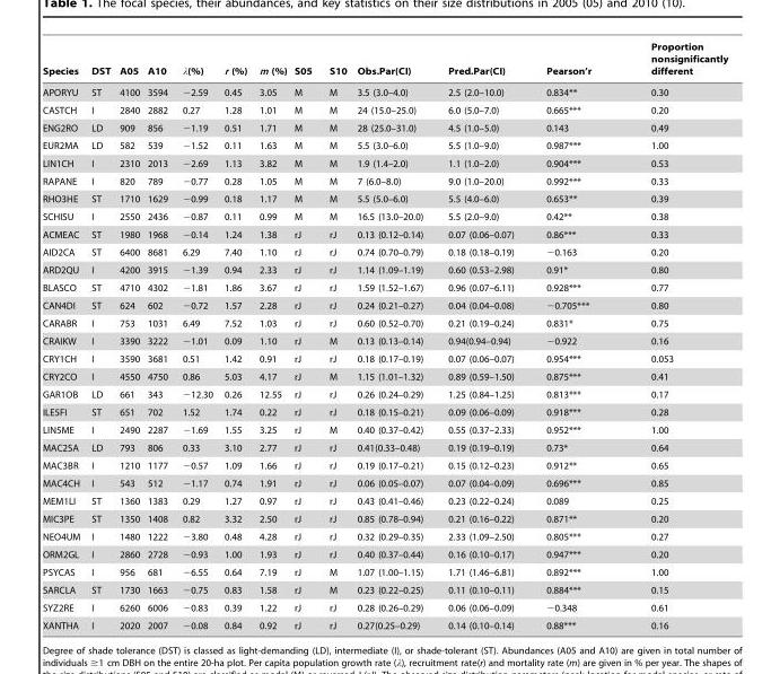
<table><thead><tr><td>Species</td><td>DST</td><td>A05</td><td>A10</td><td>l(%)</td><td>r (%)</td><td>m (%)</td><td>S05</td><td>S10</td><td>Obs.Par(CI)</td><td>Pred.Par(CI)</td><td>Pearson’r</td><td>Proportion nonsignificantly different</td></tr></thead><tbody><tr><td>APORYU</td><td>ST</td><td>4100</td><td>3594</td><td>−2.59</td><td>0.45</td><td>3.05</td><td>M</td><td>M</td><td>3.5 (3.0–4.0)</td><td>2.5 (2.0–10.0)</td><td>0.834**</td><td>0.30</td></tr><tr><td>CASTCH</td><td>I</td><td>2840</td><td>2882</td><td>0.27</td><td>1.28</td><td>1.01</td><td>M</td><td>M</td><td>24 (15.0–25.0)</td><td>6.0 (5.0–7.0)</td><td>0.665***</td><td>0.20</td></tr><tr><td>ENG2RO</td><td>LD</td><td>909</td><td>856</td><td>−1.19</td><td>0.51</td><td>1.71</td><td>M</td><td>M</td><td>28 (25.0–31.0)</td><td>4.5 (1.0–5.0)</td><td>0.143</td><td>0.49</td></tr><tr><td>EUR2MA</td><td>LD</td><td>582</td><td>539</td><td>−1.52</td><td>0.11</td><td>1.63</td><td>M</td><td>M</td><td>5.5 (3.0–6.0)</td><td>5.5 (1.0–9.0)</td><td>0.987***</td><td>1.00</td></tr><tr><td>LIN1CH</td><td>I</td><td>2310</td><td>2013</td><td>−2.69</td><td>1.13</td><td>3.82</td><td>M</td><td>M</td><td>1.9 (1.4–2.0)</td><td>1.1 (1.0–2.0)</td><td>0.904***</td><td>0.53</td></tr><tr><td>RAPANE</td><td>I</td><td>820</td><td>789</td><td>−0.77</td><td>0.28</td><td>1.05</td><td>M</td><td>M</td><td>7 (6.0–8.0)</td><td>9.0 (1.0–20.0)</td><td>0.992***</td><td>0.33</td></tr><tr><td>RHO3HE</td><td>ST</td><td>1710</td><td>1629</td><td>−0.99</td><td>0.18</td><td>1.17</td><td>M</td><td>M</td><td>5.5 (5.0–6.0)</td><td>5.5 (4.0–6.0)</td><td>0.653**</td><td>0.39</td></tr><tr><td>SCHISU</td><td>I</td><td>2550</td><td>2436</td><td>−0.87</td><td>0.11</td><td>0.99</td><td>M</td><td>M</td><td>16.5 (13.0–20.0)</td><td>5.5 (2.0–9.0)</td><td>0.42**</td><td>0.38</td></tr><tr><td>ACMEAC</td><td>ST</td><td>1980</td><td>1968</td><td>−0.14</td><td>1.24</td><td>1.38</td><td>rJ</td><td>rJ</td><td>0.13 (0.12–0.14)</td><td>0.07 (0.06–0.07)</td><td>0.86***</td><td>0.33</td></tr><tr><td>AID2CA</td><td>ST</td><td>6400</td><td>8681</td><td>6.29</td><td>7.40</td><td>1.10</td><td>rJ</td><td>rJ</td><td>0.74 (0.70–0.79)</td><td>0.18 (0.18–0.19)</td><td>−0.163</td><td>0.20</td></tr><tr><td>ARD2QU</td><td>I</td><td>4200</td><td>3915</td><td>−1.39</td><td>0.94</td><td>2.33</td><td>rJ</td><td>rJ</td><td>1.14 (1.09–1.19)</td><td>0.60 (0.53–2.98)</td><td>0.91*</td><td>0.80</td></tr><tr><td>BLASCO</td><td>ST</td><td>4710</td><td>4302</td><td>−1.81</td><td>1.86</td><td>3.67</td><td>rJ</td><td>rJ</td><td>1.59 (1.52–1.67)</td><td>0.96 (0.07–6.11)</td><td>0.928***</td><td>0.77</td></tr><tr><td>CAN4DI</td><td>ST</td><td>624</td><td>602</td><td>−0.72</td><td>1.57</td><td>2.28</td><td>rJ</td><td>rJ</td><td>0.24 (0.21–0.27)</td><td>0.04 (0.04–0.08)</td><td>−0.705***</td><td>0.80</td></tr><tr><td>CARABR</td><td>I</td><td>753</td><td>1031</td><td>6.49</td><td>7.52</td><td>1.03</td><td>rJ</td><td>rJ</td><td>0.60 (0.52–0.70)</td><td>0.21 (0.19–0.24)</td><td>0.831*</td><td>0.75</td></tr><tr><td>CRAIKW</td><td>I</td><td>3390</td><td>3222</td><td>−1.01</td><td>0.09</td><td>1.10</td><td>rJ</td><td>M</td><td>0.13 (0.13–0.14)</td><td>0.94(0.94–0.94)</td><td>−0.922</td><td>0.16</td></tr><tr><td>CRY1CH</td><td>I</td><td>3590</td><td>3681</td><td>0.51</td><td>1.42</td><td>0.91</td><td>rJ</td><td>rJ</td><td>0.18 (0.17–0.19)</td><td>0.07 (0.06–0.07)</td><td>0.954***</td><td>0.053</td></tr><tr><td>CRY2CO</td><td>I</td><td>4550</td><td>4750</td><td>0.86</td><td>5.03</td><td>4.17</td><td>rJ</td><td>M</td><td>1.15 (1.01–1.32)</td><td>0.89 (0.59–1.50)</td><td>0.875***</td><td>0.41</td></tr><tr><td>GAR1OB</td><td>LD</td><td>661</td><td>343</td><td>−12.30</td><td>0.26</td><td>12.55</td><td>rJ</td><td>rJ</td><td>0.26 (0.24–0.29)</td><td>1.25 (0.84–1.25)</td><td>0.813***</td><td>0.17</td></tr><tr><td>ILE5FI</td><td>ST</td><td>651</td><td>702</td><td>1.52</td><td>1.74</td><td>0.22</td><td>rJ</td><td>rJ</td><td>0.18 (0.15–0.21)</td><td>0.09 (0.06–0.09)</td><td>0.918***</td><td>0.28</td></tr><tr><td>LIN5ME</td><td>I</td><td>2490</td><td>2287</td><td>−1.69</td><td>1.55</td><td>3.25</td><td>rJ</td><td>M</td><td>0.40 (0.37–0.42)</td><td>0.55 (0.37–2.33)</td><td>0.952***</td><td>1.00</td></tr><tr><td>MAC2SA</td><td>LD</td><td>793</td><td>806</td><td>0.33</td><td>3.10</td><td>2.77</td><td>rJ</td><td>rJ</td><td>0.41(0.33–0.48)</td><td>0.19 (0.19–0.19)</td><td>0.73*</td><td>0.64</td></tr><tr><td>MAC3BR</td><td>I</td><td>1210</td><td>1177</td><td>−0.57</td><td>1.09</td><td>1.66</td><td>rJ</td><td>rJ</td><td>0.19 (0.17–0.21)</td><td>0.15 (0.12–0.23)</td><td>0.912**</td><td>0.65</td></tr><tr><td>MAC4CH</td><td>I</td><td>543</td><td>512</td><td>−1.17</td><td>0.74</td><td>1.91</td><td>rJ</td><td>rJ</td><td>0.06 (0.05–0.07)</td><td>0.07 (0.04–0.09)</td><td>0.696***</td><td>0.85</td></tr><tr><td>MEM1LI</td><td>ST</td><td>1360</td><td>1383</td><td>0.29</td><td>1.27</td><td>0.97</td><td>rJ</td><td>rJ</td><td>0.43 (0.41–0.46)</td><td>0.23 (0.22–0.24)</td><td>0.089</td><td>0.25</td></tr><tr><td>MIC3PE</td><td>ST</td><td>1350</td><td>1408</td><td>0.82</td><td>3.32</td><td>2.50</td><td>rJ</td><td>rJ</td><td>0.85 (0.78–0.94)</td><td>0.21 (0.16–0.22)</td><td>0.871**</td><td>0.20</td></tr><tr><td>NEO4UM</td><td>I</td><td>1480</td><td>1222</td><td>−3.80</td><td>0.48</td><td>4.28</td><td>rJ</td><td>rJ</td><td>0.32 (0.29–0.35)</td><td>2.33 (1.09–2.50)</td><td>0.805***</td><td>0.27</td></tr><tr><td>ORM2GL</td><td>I</td><td>2860</td><td>2728</td><td>−0.93</td><td>1.00</td><td>1.93</td><td>rJ</td><td>rJ</td><td>0.40 (0.37–0.44)</td><td>0.16 (0.10–0.17)</td><td>0.947***</td><td>0.20</td></tr><tr><td>PSYCAS</td><td>I</td><td>956</td><td>681</td><td>−6.55</td><td>0.64</td><td>7.19</td><td>rJ</td><td>M</td><td>1.07 (1.00–1.15)</td><td>1.71 (1.46–6.81)</td><td>0.892***</td><td>1.00</td></tr><tr><td>SARCLA</td><td>ST</td><td>1730</td><td>1663</td><td>−0.75</td><td>0.83</td><td>1.58</td><td>rJ</td><td>M</td><td>0.23 (0.22–0.25)</td><td>0.11 (0.10–0.11)</td><td>0.884***</td><td>0.15</td></tr><tr><td>SYZ2RE</td><td>I</td><td>6260</td><td>6006</td><td>−0.83</td><td>0.39</td><td>1.22</td><td>rJ</td><td>rJ</td><td>0.28 (0.26–0.29)</td><td>0.06 (0.06–0.09)</td><td>−0.348</td><td>0.61</td></tr><tr><td>XANTHA</td><td>I</td><td>2020</td><td>2007</td><td>−0.08</td><td>0.84</td><td>0.92</td><td>rJ</td><td>rJ</td><td>0.27(0.25–0.29)</td><td>0.14 (0.10–0.14)</td><td>0.88***</td><td>0.16</td></tr></tbody></table>